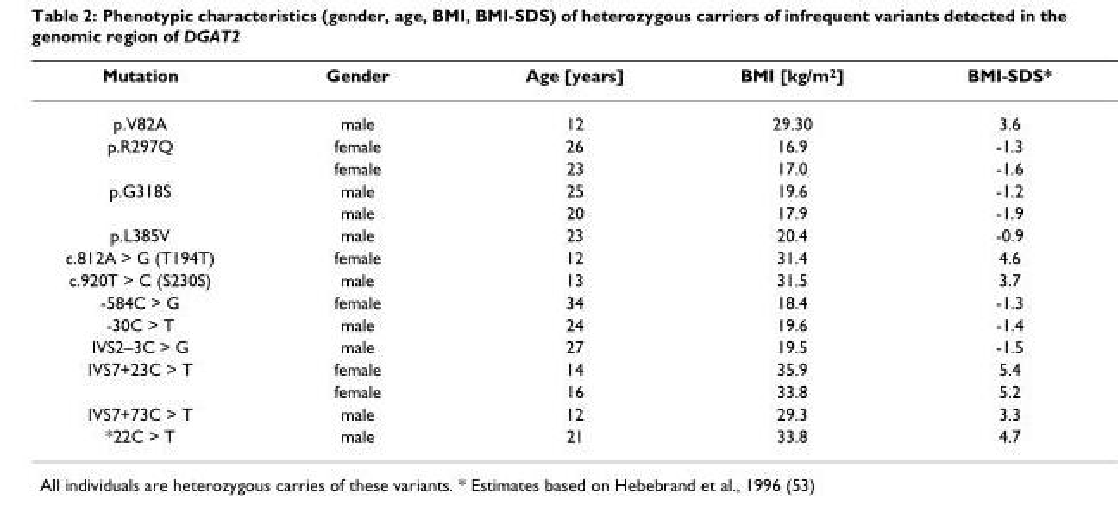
<table><thead><tr><td>Mutation</td><td>Gender</td><td>Age [years]</td><td>BMI [kg/m<sup>2</sup>]</td><td>BMI-SDS*</td></tr></thead><tbody><tr><td>p.V82A</td><td>male</td><td>12</td><td>29.30</td><td>3.6</td></tr><tr><td rowspan="2">p.R297Q</td><td>female</td><td>26</td><td>16.9</td><td>-1.3</td></tr><tr><td>female</td><td>23</td><td>17.0</td><td>-1.6</td></tr><tr><td rowspan="2">p.G318S</td><td>male</td><td>25</td><td>19.6</td><td>-1.2</td></tr><tr><td>male</td><td>20</td><td>17.9</td><td>-1.9</td></tr><tr><td>p.L385V</td><td>male</td><td>23</td><td>20.4</td><td>-0.9</td></tr><tr><td>c.812A &gt; G (T194T)</td><td>female</td><td>12</td><td>31.4</td><td>4.6</td></tr><tr><td>c.920T &gt; C (S230S)</td><td>male</td><td>13</td><td>31.5</td><td>3.7</td></tr><tr><td>-584C &gt; G</td><td>female</td><td>34</td><td>18.4</td><td>-1.3</td></tr><tr><td>-30C &gt; T</td><td>male</td><td>24</td><td>19.6</td><td>-1.4</td></tr><tr><td>IVS2–3C &gt; G</td><td>male</td><td>27</td><td>19.5</td><td>-1.5</td></tr><tr><td rowspan="2">IVS7+23C &gt; T</td><td>female</td><td>14</td><td>35.9</td><td>5.4</td></tr><tr><td>female</td><td>16</td><td>33.8</td><td>5.2</td></tr><tr><td>IVS7+73C &gt; T</td><td>male</td><td>12</td><td>29.3</td><td>3.3</td></tr><tr><td>*22C &gt; T</td><td>male</td><td>21</td><td>33.8</td><td>4.7</td></tr></tbody></table>